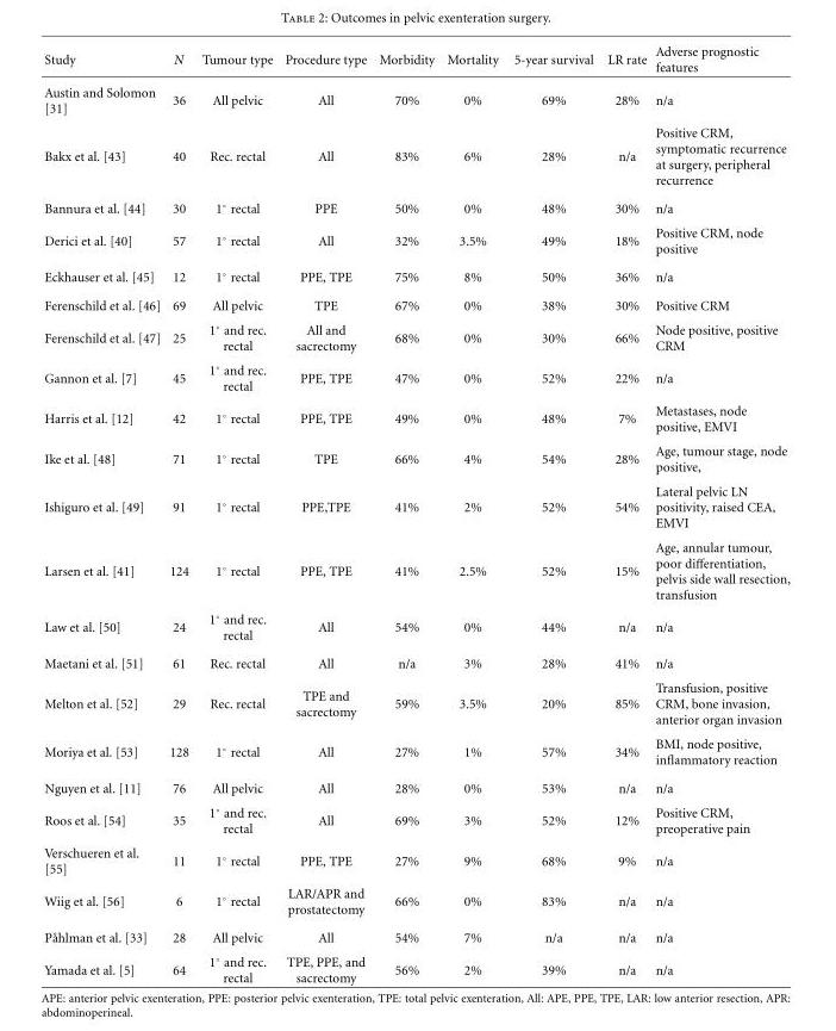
<table><thead><tr><td>Study</td><td>N</td><td>Tumour type</td><td>Procedure type</td><td>Morbidity</td><td>Mortality</td><td>5-year survival</td><td>LR rate</td><td>Adverse prognostic features</td></tr></thead><tbody><tr><td>Austin and Solomon [31]</td><td>36</td><td>All pelvic</td><td>All</td><td>70%</td><td>0%</td><td>69%</td><td>28%</td><td>n/a</td></tr><tr><td>Bakx et al. [43]</td><td>40</td><td>Rec. rectal</td><td>All</td><td>83%</td><td>6%</td><td>28%</td><td>n/a</td><td>Positive CRM, symptomatic recurrence at surgery, peripheral recurrence</td></tr><tr><td>Bannura et al. [44]</td><td>30</td><td>1◦ rectal</td><td>PPE</td><td>50%</td><td>0%</td><td>48%</td><td>30%</td><td>n/a</td></tr><tr><td>Derici et al. [40]</td><td>57</td><td>1◦ rectal</td><td>All</td><td>32%</td><td>3.5%</td><td>49%</td><td>18%</td><td>Positive CRM, node positive</td></tr><tr><td>Eckhauser et al. [45]</td><td>12</td><td>1◦ rectal</td><td>PPE, TPE</td><td>75%</td><td>8%</td><td>50%</td><td>36%</td><td>n/a</td></tr><tr><td>Ferenschild et al. [46]</td><td>69</td><td>All pelvic</td><td>TPE</td><td>67%</td><td>0%</td><td>38%</td><td>30%</td><td>Positive CRM</td></tr><tr><td>Ferenschild et al. [47]</td><td>25</td><td>1◦ and rec. rectal</td><td>All and sacrectomy</td><td>68%</td><td>0%</td><td>30%</td><td>66%</td><td>Node positive, positive CRM</td></tr><tr><td>Gannon et al. [7]</td><td>45</td><td>1◦ and rec. rectal</td><td>PPE, TPE</td><td>47%</td><td>0%</td><td>52%</td><td>22%</td><td>n/a</td></tr><tr><td>Harris et al. [12]</td><td>42</td><td>1◦ rectal</td><td>PPE, TPE</td><td>49%</td><td>0%</td><td>48%</td><td>7%</td><td>Metastases, node positive, EMVI</td></tr><tr><td>Ike et al. [48]</td><td>71</td><td>1◦ rectal</td><td>TPE</td><td>66%</td><td>4%</td><td>54%</td><td>28%</td><td>Age, tumour stage, node positive,</td></tr><tr><td>Ishiguro et al. [49]</td><td>91</td><td>1◦ rectal</td><td>PPE,TPE</td><td>41%</td><td>2%</td><td>52%</td><td>54%</td><td>Lateral pelvic LN positivity, raised CEA, EMVI</td></tr><tr><td>Larsen et al. [41]</td><td>124</td><td>1◦ rectal</td><td>PPE, TPE</td><td>41%</td><td>2.5%</td><td>52%</td><td>15%</td><td>Age, annular tumour, poor differentiation, pelvis side wall resection, transfusion</td></tr><tr><td>Law et al. [50]</td><td>24</td><td>1◦ and rec. rectal</td><td>All</td><td>54%</td><td>0%</td><td>44%</td><td>n/a</td><td>n/a</td></tr><tr><td>Maetani et al. [51]</td><td>61</td><td>Rec. rectal</td><td>All</td><td>n/a</td><td>3%</td><td>28%</td><td>41%</td><td>n/a</td></tr><tr><td>Melton et al. [52]</td><td>29</td><td>Rec. rectal</td><td>TPE and sacrectomy</td><td>59%</td><td>3.5%</td><td>20%</td><td>85%</td><td>Transfusion, positive CRM, bone invasion, anterior organ invasion</td></tr><tr><td>Moriya et al. [53]</td><td>128</td><td>1◦ rectal</td><td>All</td><td>27%</td><td>1%</td><td>57%</td><td>34%</td><td>BMI, node positive, inflammatory reaction</td></tr><tr><td>Nguyen et al. [11]</td><td>76</td><td>All pelvic</td><td>All</td><td>28%</td><td>0%</td><td>53%</td><td>n/a</td><td>n/a</td></tr><tr><td>Roos et al. [54]</td><td>35</td><td>1◦ and rec. rectal</td><td>All</td><td>69%</td><td>3%</td><td>52%</td><td>12%</td><td>Positive CRM, preoperative pain</td></tr><tr><td>Verschueren et al. [55]</td><td>11</td><td>1◦ rectal</td><td>PPE, TPE</td><td>27%</td><td>9%</td><td>68%</td><td>9%</td><td>n/a</td></tr><tr><td>Wiig et al. [56]</td><td>6</td><td>1◦ rectal</td><td>LAR/APR and prostatectomy</td><td>66%</td><td>0%</td><td>83%</td><td>n/a</td><td>n/a</td></tr><tr><td>P˚ahlman et al. [33]</td><td>28</td><td>All pelvic</td><td>All</td><td>54%</td><td>7%</td><td>n/a</td><td>n/a</td><td>n/a</td></tr><tr><td>Yamada et al. [5]</td><td>64</td><td>1◦ and rec. rectal</td><td>TPE, PPE, and sacrectomy</td><td>56%</td><td>2%</td><td>39%</td><td>n/a</td><td>n/a</td></tr></tbody></table>